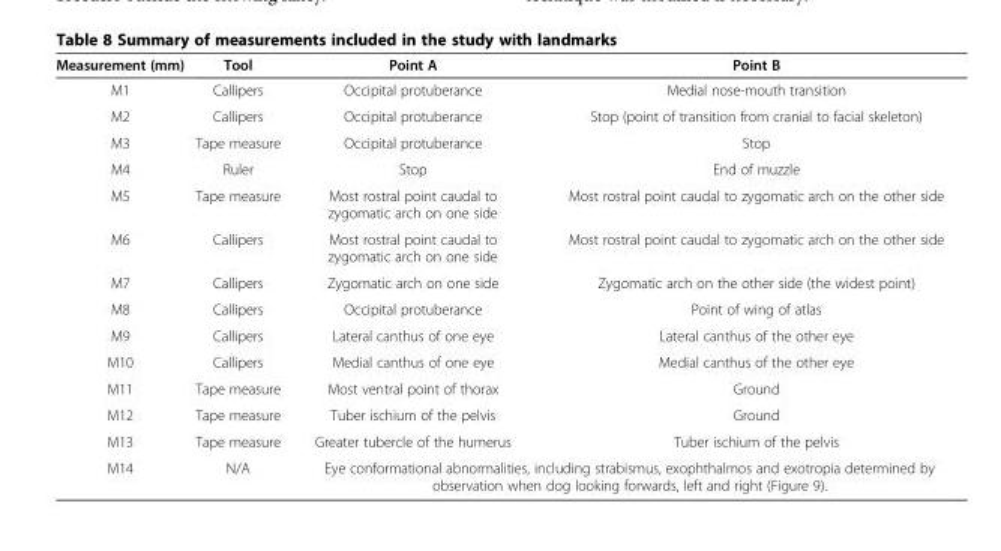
<table><thead><tr><td>Measurement (mm)</td><td>Tool</td><td>Point A</td><td>Point B</td></tr></thead><tbody><tr><td>M1</td><td>Callipers</td><td>Occipital protuberance</td><td>Medial nose-mouth transition</td></tr><tr><td>M2</td><td>Callipers</td><td>Occipital protuberance</td><td>Stop (point of transition from cranial to facial skeleton)</td></tr><tr><td>M3</td><td>Tape measure</td><td>Occipital protuberance</td><td>Stop</td></tr><tr><td>M4</td><td>Ruler</td><td>Stop</td><td>End of muzzle</td></tr><tr><td>M5</td><td>Tape measure</td><td>Most rostral point caudal to zygomatic arch on one side</td><td>Most rostral point caudal to zygomatic arch on the other side</td></tr><tr><td>M6</td><td>Callipers</td><td>Most rostral point caudal to zygomatic arch on one side</td><td>Most rostral point caudal to zygomatic arch on the other side</td></tr><tr><td>M7</td><td>Callipers</td><td>Zygomatic arch on one side</td><td>Zygomatic arch on the other side (the widest point)</td></tr><tr><td>M8</td><td>Callipers</td><td>Occipital protuberance</td><td>Point of wing of atlas</td></tr><tr><td>M9</td><td>Callipers</td><td>Lateral canthus of one eye</td><td>Lateral canthus of the other eye</td></tr><tr><td>M10</td><td>Callipers</td><td>Medial canthus of one eye</td><td>Medial canthus of the other eye</td></tr><tr><td>M11</td><td>Tape measure</td><td>Most ventral point of thorax</td><td>Ground</td></tr><tr><td>M12</td><td>Tape measure</td><td>Tuber ischium of the pelvis</td><td>Ground</td></tr><tr><td>M13</td><td>Tape measure</td><td>Greater tubercle of the humerus</td><td>Tuber ischium of the pelvis</td></tr><tr><td>M14</td><td>N/A</td><td colspan="2">Eye conformational abnormalities, including strabismus, exophthalmos and exotropia determined by observation when dog looking forwards, left and right (Figure 9).</td></tr></tbody></table>